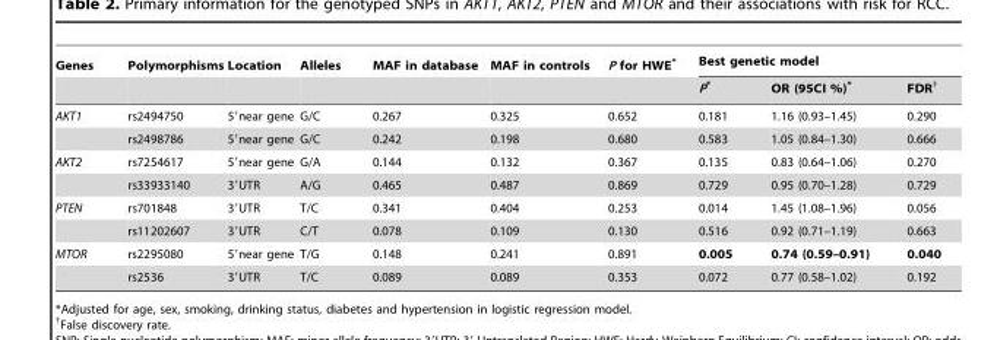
<table><thead><tr><td rowspan="2">Genes</td><td rowspan="2">Polymorphisms</td><td rowspan="2">Location</td><td rowspan="2">Alleles</td><td rowspan="2">MAF in database</td><td rowspan="2">MAF in controls</td><td rowspan="2">P for HWE*</td><td colspan="3">Best genetic model</td></tr><tr><td>P*</td><td>OR (95CI %)*</td><td>FDR†</td></tr></thead><tbody><tr><td rowspan="2">AKT1</td><td>rs2494750</td><td>5′near gene</td><td>G/C</td><td>0.267</td><td>0.325</td><td>0.652</td><td>0.181</td><td>1.16 (0.93–1.45)</td><td>0.290</td></tr><tr><td>rs2498786</td><td>5′near gene</td><td>G/C</td><td>0.242</td><td>0.198</td><td>0.680</td><td>0.583</td><td>1.05 (0.84–1.30)</td><td>0.666</td></tr><tr><td rowspan="2">AKT2</td><td>rs7254617</td><td>5′near gene</td><td>G/A</td><td>0.144</td><td>0.132</td><td>0.367</td><td>0.135</td><td>0.83 (0.64–1.06)</td><td>0.270</td></tr><tr><td>rs33933140</td><td>3′UTR</td><td>A/G</td><td>0.465</td><td>0.487</td><td>0.869</td><td>0.729</td><td>0.95 (0.70–1.28)</td><td>0.729</td></tr><tr><td rowspan="2">PTEN</td><td>rs701848</td><td>3′UTR</td><td>T/C</td><td>0.341</td><td>0.404</td><td>0.253</td><td>0.014</td><td>1.45 (1.08–1.96)</td><td>0.056</td></tr><tr><td>rs11202607</td><td>3′UTR</td><td>C/T</td><td>0.078</td><td>0.109</td><td>0.130</td><td>0.516</td><td>0.92 (0.71–1.19)</td><td>0.663</td></tr><tr><td rowspan="2">MTOR</td><td>rs2295080</td><td>5′near gene</td><td>T/G</td><td>0.148</td><td>0.241</td><td>0.891</td><td>0.005</td><td>0.74 (0.59–0.91)</td><td>0.040</td></tr><tr><td>rs2536</td><td>3′UTR</td><td>T/C</td><td>0.089</td><td>0.089</td><td>0.353</td><td>0.072</td><td>0.77 (0.58–1.02)</td><td>0.192</td></tr></tbody></table>